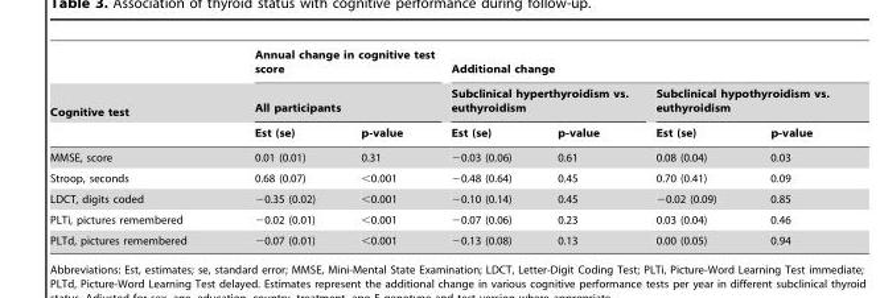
<table><thead><tr><td rowspan="3">Cognitive test</td><td rowspan="2" colspan="2">Annual change in cognitive test score All participants</td><td colspan="4">Additional change</td></tr><tr><td colspan="2">Subclinical hyperthyroidism vs. euthyroidism</td><td colspan="2">Subclinical hypothyroidism vs. euthyroidism</td></tr><tr><td>Est (se)</td><td>p-value</td><td>Est (se)</td><td>p-value</td><td>Est (se)</td><td>p-value</td></tr></thead><tbody><tr><td>MMSE, score</td><td>0.01 (0.01)</td><td>0.31</td><td>−0.03 (0.06)</td><td>0.61</td><td>0.08 (0.04)</td><td>0.03</td></tr><tr><td>Stroop, seconds</td><td>0.68 (0.07)</td><td>&lt;0.001</td><td>−0.48 (0.64)</td><td>0.45</td><td>0.70 (0.41)</td><td>0.09</td></tr><tr><td>LDCT, digits coded</td><td>−0.35 (0.02)</td><td>&lt;0.001</td><td>−0.10 (0.14)</td><td>0.45</td><td>−0.02 (0.09)</td><td>0.85</td></tr><tr><td>PLTi, pictures remembered</td><td>−0.02 (0.01)</td><td>&lt;0.001</td><td>−0.07 (0.06)</td><td>0.23</td><td>0.03 (0.04)</td><td>0.46</td></tr><tr><td>PLTd, pictures remembered</td><td>−0.07 (0.01)</td><td>&lt;0.001</td><td>−0.13 (0.08)</td><td>0.13</td><td>0.00 (0.05)</td><td>0.94</td></tr></tbody></table>